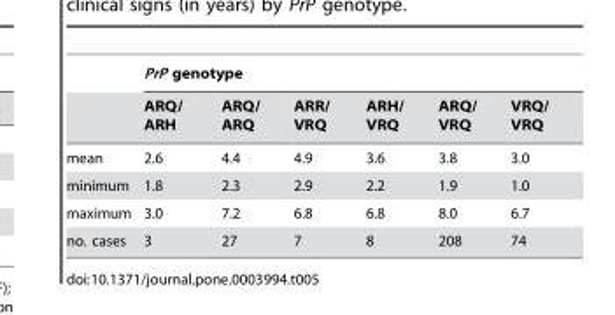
<table><thead><tr><td rowspan="2"></td><td colspan="6">PrP genotype</td></tr><tr><td>ARQ/ ARH</td><td>ARQ/ ARQ</td><td>ARR/ VRQ</td><td>ARH/ VRQ</td><td>ARQ/ VRQ</td><td>VRQ/ VRQ</td></tr></thead><tbody><tr><td>mean</td><td>2.6</td><td>4.4</td><td>4.9</td><td>3.6</td><td>3.8</td><td>3.0</td></tr><tr><td>minimum</td><td>1.8</td><td>2.3</td><td>2.9</td><td>2.2</td><td>1.9</td><td>1.0</td></tr><tr><td>maximum</td><td>3.0</td><td>7.2</td><td>6.8</td><td>6.8</td><td>8.0</td><td>6.7</td></tr><tr><td>no. cases</td><td>3</td><td>27</td><td>7</td><td>8</td><td>208</td><td>74</td></tr></tbody></table>